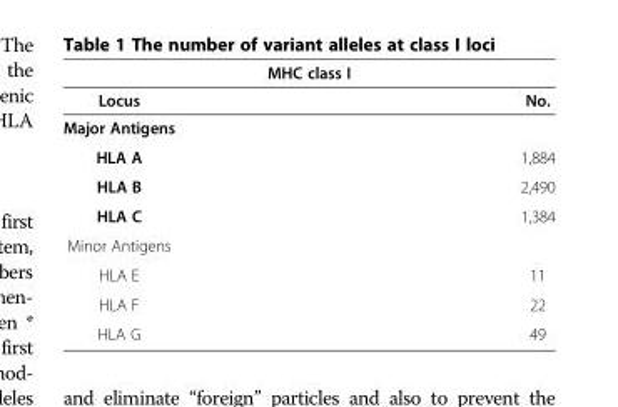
<table><thead><tr><td colspan="2">MHC class I</td></tr><tr><td>Locus</td><td>No.</td></tr></thead><tbody><tr><td colspan="2">Major Antigens</td></tr><tr><td>HLA A</td><td>1,884</td></tr><tr><td>HLA B</td><td>2,490</td></tr><tr><td>HLA C</td><td>1,384</td></tr><tr><td colspan="2">Minor Antigens</td></tr><tr><td>HLA E</td><td>11</td></tr><tr><td>HLA F</td><td>22</td></tr><tr><td>HLA G</td><td>49</td></tr></tbody></table>